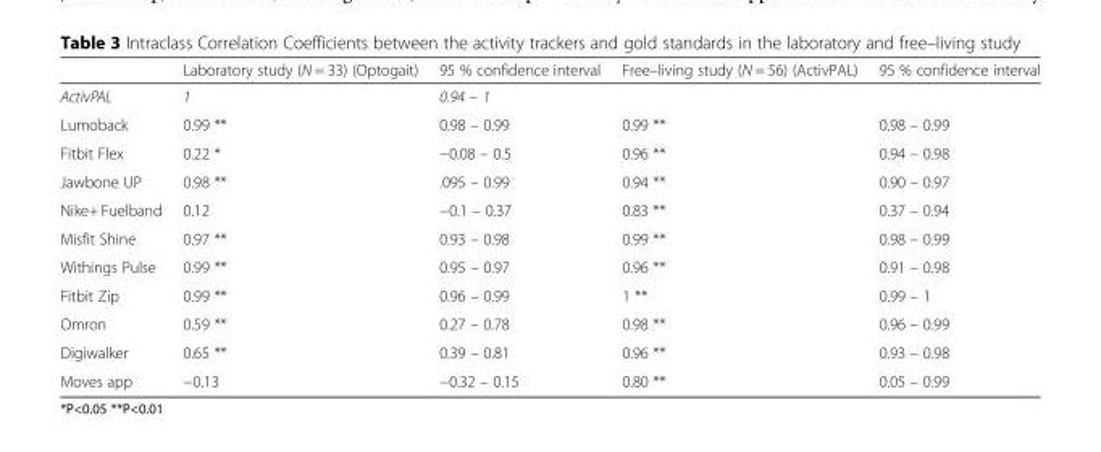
<table><thead><tr><td></td><td>Laboratory study (N = 33) (Optogait)</td><td>95 % confidence interval</td><td>Free–living study (N = 56) (ActivPAL)</td><td>95 % confidence interval</td></tr></thead><tbody><tr><td>ActivPAL</td><td>1</td><td>0.94 – 1</td><td></td><td></td></tr><tr><td>Lumoback</td><td>0.99 **</td><td>0.98 – 0.99</td><td>0.99 **</td><td>0.98 – 0.99</td></tr><tr><td>Fitbit Flex</td><td>0.22 *</td><td>−0.08 – 0.5</td><td>0.96 **</td><td>0.94 – 0.98</td></tr><tr><td>Jawbone UP</td><td>0.98 **</td><td>.095 – 0.99</td><td>0.94 **</td><td>0.90 – 0.97</td></tr><tr><td>Nike+ Fuelband</td><td>0.12</td><td>−0.1 – 0.37</td><td>0.83 **</td><td>0.37 – 0.94</td></tr><tr><td>Misfit Shine</td><td>0.97 **</td><td>0.93 – 0.98</td><td>0.99 **</td><td>0.98 – 0.99</td></tr><tr><td>Withings Pulse</td><td>0.99 **</td><td>0.95 – 0.97</td><td>0.96 **</td><td>0.91 – 0.98</td></tr><tr><td>Fitbit Zip</td><td>0.99 **</td><td>0.96 – 0.99</td><td>1 **</td><td>0.99 – 1</td></tr><tr><td>Omron</td><td>0.59 **</td><td>0.27 – 0.78</td><td>0.98 **</td><td>0.96 – 0.99</td></tr><tr><td>Digiwalker</td><td>0.65 **</td><td>0.39 – 0.81</td><td>0.96 **</td><td>0.93 – 0.98</td></tr><tr><td>Moves app</td><td>−0.13</td><td>−0.32 – 0.15</td><td>0.80 **</td><td>0.05 – 0.99</td></tr></tbody></table>